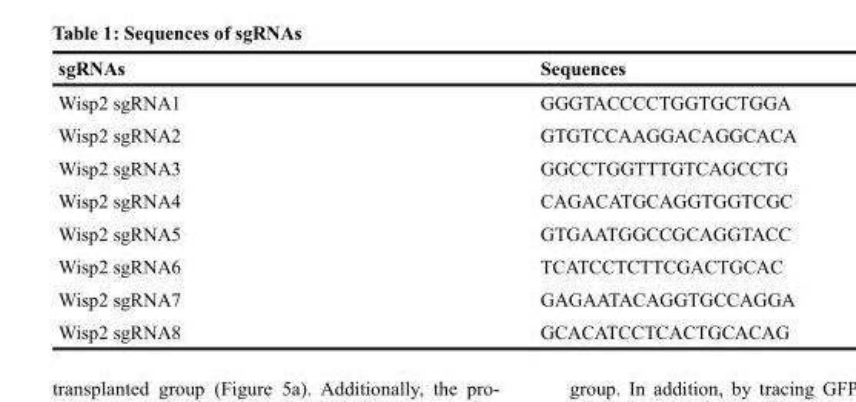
<table><thead><tr><td>sgRNAs</td><td>Sequences</td></tr></thead><tbody><tr><td>Wisp2 sgRNA1</td><td>GGGTACCCCTGGTGCTGGA</td></tr><tr><td>Wisp2 sgRNA2</td><td>GTGTCCAAGGACAGGCACA</td></tr><tr><td>Wisp2 sgRNA3</td><td>GGCCTGGTTTGTCAGCCTG</td></tr><tr><td>Wisp2 sgRNA4</td><td>CAGACATGCAGGTGGTCGC</td></tr><tr><td>Wisp2 sgRNA5</td><td>GTGAATGGCCGCAGGTACC</td></tr><tr><td>Wisp2 sgRNA6</td><td>TCATCCTCTTCGACTGCAC</td></tr><tr><td>Wisp2 sgRNA7</td><td>GAGAATACAGGTGCCAGGA</td></tr><tr><td>Wisp2 sgRNA8</td><td>GCACATCCTCACTGCACAG</td></tr></tbody></table>